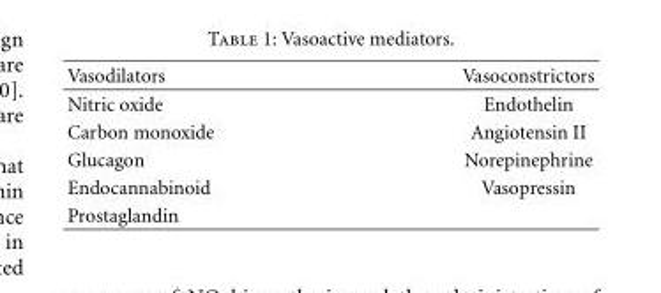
<table><thead><tr><td>Vasodilators</td><td>Vasoconstrictors</td></tr></thead><tbody><tr><td>Nitric oxide</td><td>Endothelin</td></tr><tr><td>Carbon monoxide</td><td>Angiotensin II</td></tr><tr><td>Glucagon</td><td>Norepinephrine</td></tr><tr><td>Endocannabinoid</td><td>Vasopressin</td></tr><tr><td>Prostaglandin</td><td></td></tr></tbody></table>